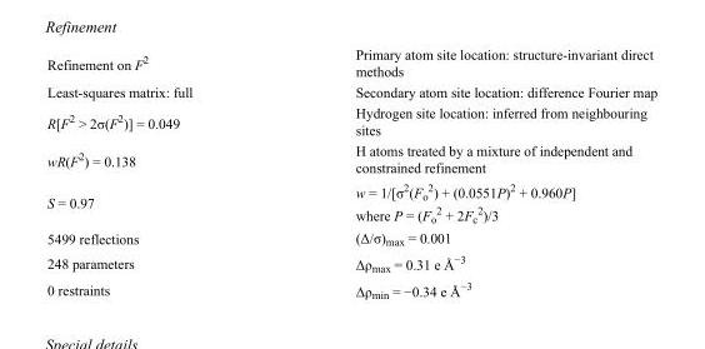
<table><tbody><tr><td>Refinement on F<sup>2</sup></td><td>Primary atom site location: structure-invariant direct methods</td></tr><tr><td>Least-squares matrix: full</td><td>Secondary atom site location: difference Fourier map</td></tr><tr><td>R[F<sup>2</sup> &gt; 2σ(F<sup>2</sup>)] = 0.049</td><td>Hydrogen site location: inferred from neighbouring sites</td></tr><tr><td>wR(F<sup>2</sup>) = 0.138</td><td>H atoms treated by a mixture of independent and constrained refinement</td></tr><tr><td>S = 0.97</td><td>w = 1/[σ<sup>2</sup>(F<sub>o</sub> <sup>2</sup>) + (0.0551P)<sup>2</sup> + 0.960P] where P = (F<sub>o</sub> <sup>2</sup> + 2F<sub>c</sub> <sup>2</sup>)/3</td></tr><tr><td>5499 reflections</td><td>(Δ/σ)<sub>max</sub> = 0.001</td></tr><tr><td>248 parameters</td><td>Δρ<sub>max</sub> = 0.31 e Å<sup>−3</sup></td></tr><tr><td>0 restraints</td><td>Δρ<sub>min</sub> = −0.34 e Å<sup>−3</sup></td></tr></tbody></table>